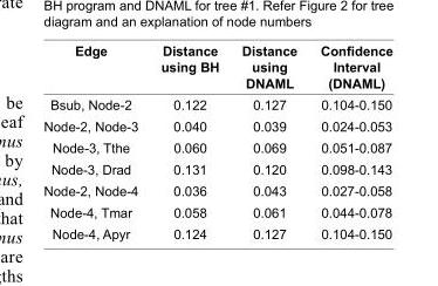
<table><thead><tr><td>Edge</td><td>Distance using BH</td><td>Distance using DNAML</td><td>Confi dence Interval (DNAML)</td></tr></thead><tbody><tr><td>Bsub, Node-2</td><td>0.122</td><td>0.127</td><td>0.104-0.150</td></tr><tr><td>Node-2, Node-3</td><td>0.040</td><td>0.039</td><td>0.024-0.053</td></tr><tr><td>Node-3, Tthe</td><td>0.060</td><td>0.069</td><td>0.051-0.087</td></tr><tr><td>Node-3, Drad</td><td>0.131</td><td>0.120</td><td>0.098-0.143</td></tr><tr><td>Node-2, Node-4</td><td>0.036</td><td>0.043</td><td>0.027-0.058</td></tr><tr><td>Node-4, Tmar</td><td>0.058</td><td>0.061</td><td>0.044-0.078</td></tr><tr><td>Node-4, Apyr</td><td>0.124</td><td>0.127</td><td>0.104-0.150</td></tr></tbody></table>